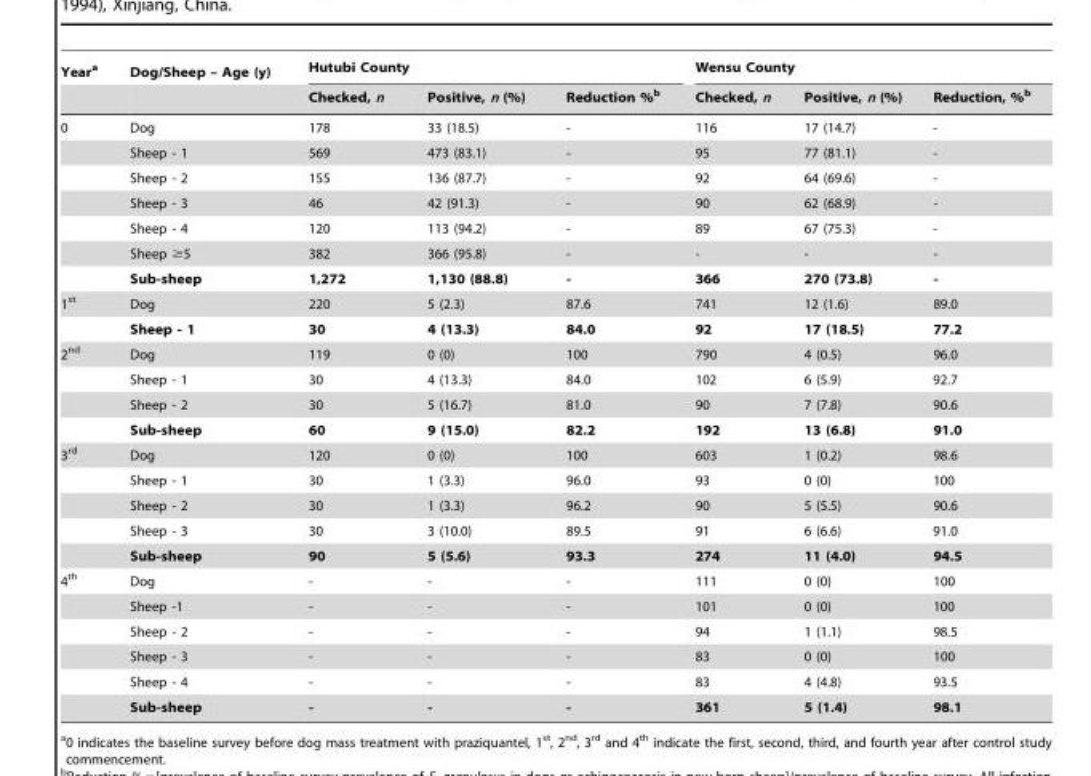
<table><thead><tr><td rowspan="2">Year<sup>a</sup></td><td rowspan="2">Dog/Sheep – Age (y)</td><td colspan="3">Hutubi County</td><td colspan="3">Wensu County</td></tr><tr><td>Checked, n</td><td>Positive, n (%)</td><td>Reduction %<sup>b</sup></td><td>Checked, n</td><td>Positive, n (%)</td><td>Reduction, %<sup>b</sup></td></tr></thead><tbody><tr><td rowspan="7">0</td><td>Dog</td><td>178</td><td>33 (18.5)</td><td>-</td><td>116</td><td>17 (14.7)</td><td>-</td></tr><tr><td>Sheep - 1</td><td>569</td><td>473 (83.1)</td><td>-</td><td>95</td><td>77 (81.1)</td><td>-</td></tr><tr><td>Sheep - 2</td><td>155</td><td>136 (87.7)</td><td>-</td><td>92</td><td>64 (69.6)</td><td>-</td></tr><tr><td>Sheep - 3</td><td>46</td><td>42 (91.3)</td><td>-</td><td>90</td><td>62 (68.9)</td><td>-</td></tr><tr><td>Sheep - 4</td><td>120</td><td>113 (94.2)</td><td>-</td><td>89</td><td>67 (75.3)</td><td>-</td></tr><tr><td>Sheep ≥5</td><td>382</td><td>366 (95.8)</td><td>-</td><td>-</td><td>-</td><td>-</td></tr><tr><td>Sub-sheep</td><td>1,272</td><td>1,130 (88.8)</td><td>-</td><td>366</td><td>270 (73.8)</td><td>-</td></tr><tr><td rowspan="2">1<sup>st</sup></td><td>Dog</td><td>220</td><td>5 (2.3)</td><td>87.6</td><td>741</td><td>12 (1.6)</td><td>89.0</td></tr><tr><td>Sheep - 1</td><td>30</td><td>4 (13.3)</td><td>84.0</td><td>92</td><td>17 (18.5)</td><td>77.2</td></tr><tr><td rowspan="4">2<sup>nd</sup></td><td>Dog</td><td>119</td><td>0 (0)</td><td>100</td><td>790</td><td>4 (0.5)</td><td>96.0</td></tr><tr><td>Sheep - 1</td><td>30</td><td>4 (13.3)</td><td>84.0</td><td>102</td><td>6 (5.9)</td><td>92.7</td></tr><tr><td>Sheep - 2</td><td>30</td><td>5 (16.7)</td><td>81.0</td><td>90</td><td>7 (7.8)</td><td>90.6</td></tr><tr><td>Sub-sheep</td><td>60</td><td>9 (15.0)</td><td>82.2</td><td>192</td><td>13 (6.8)</td><td>91.0</td></tr><tr><td rowspan="5">3<sup>rd</sup></td><td>Dog</td><td>120</td><td>0 (0)</td><td>100</td><td>603</td><td>1 (0.2)</td><td>98.6</td></tr><tr><td>Sheep - 1</td><td>30</td><td>1 (3.3)</td><td>96.0</td><td>93</td><td>0 (0)</td><td>100</td></tr><tr><td>Sheep - 2</td><td>30</td><td>1 (3.3)</td><td>96.2</td><td>90</td><td>5 (5.5)</td><td>90.6</td></tr><tr><td>Sheep - 3</td><td>30</td><td>3 (10.0)</td><td>89.5</td><td>91</td><td>6 (6.6)</td><td>91.0</td></tr><tr><td>Sub-sheep</td><td>90</td><td>5 (5.6)</td><td>93.3</td><td>274</td><td>11 (4.0)</td><td>94.5</td></tr><tr><td rowspan="6">4<sup>th</sup></td><td>Dog</td><td>-</td><td>-</td><td>-</td><td>111</td><td>0 (0)</td><td>100</td></tr><tr><td>Sheep -1</td><td>-</td><td>-</td><td>-</td><td>101</td><td>0 (0)</td><td>100</td></tr><tr><td>Sheep - 2</td><td>-</td><td>-</td><td>-</td><td>94</td><td>1 (1.1)</td><td>98.5</td></tr><tr><td>Sheep - 3</td><td>-</td><td>-</td><td>-</td><td>83</td><td>0 (0)</td><td>100</td></tr><tr><td>Sheep - 4</td><td>-</td><td>-</td><td>-</td><td>83</td><td>4 (4.8)</td><td>93.5</td></tr><tr><td>Sub-sheep</td><td>-</td><td>-</td><td>-</td><td>361</td><td>5 (1.4)</td><td>98.1</td></tr></tbody></table>